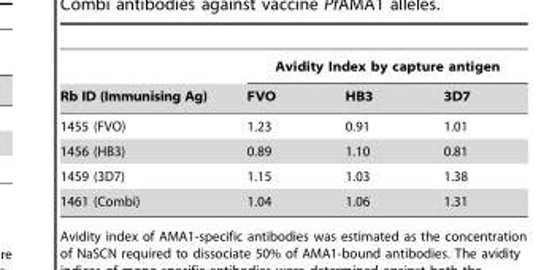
<table><thead><tr><td rowspan="2">Rb ID (Immunising Ag)</td><td colspan="3">Avidity Index by capture antigen</td></tr><tr><td>FVO</td><td>HB3</td><td>3D7</td></tr></thead><tbody><tr><td>1455 (FVO)</td><td>1.23</td><td>0.91</td><td>1.01</td></tr><tr><td>1456 (HB3)</td><td>0.89</td><td>1.10</td><td>0.81</td></tr><tr><td>1459 (3D7)</td><td>1.15</td><td>1.03</td><td>1.38</td></tr><tr><td>1461 (Combi)</td><td>1.04</td><td>1.06</td><td>1.31</td></tr></tbody></table>